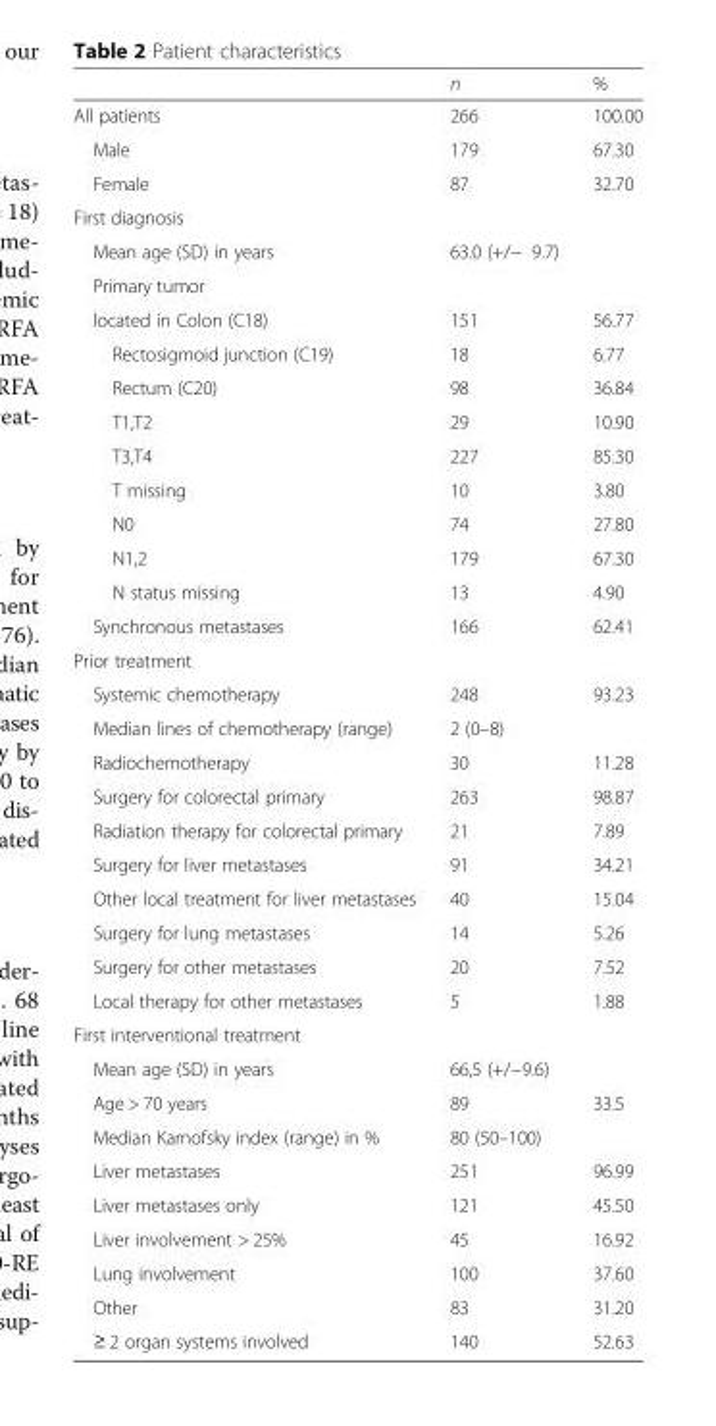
<table><thead><tr><td></td><td>n</td><td>%</td></tr></thead><tbody><tr><td>All patients</td><td>266</td><td>100.00</td></tr><tr><td>Male</td><td>179</td><td>67.30</td></tr><tr><td>Female</td><td>87</td><td>32.70</td></tr><tr><td colspan="3">First diagnosis</td></tr><tr><td>Mean age (SD) in years</td><td>63.0 (+/− 9.7)</td><td></td></tr><tr><td colspan="3">Primary tumor</td></tr><tr><td>located in Colon (C18)</td><td>151</td><td>56.77</td></tr><tr><td>Rectosigmoid junction (C19)</td><td>18</td><td>6.77</td></tr><tr><td>Rectum (C20)</td><td>98</td><td>36.84</td></tr><tr><td>T1,T2</td><td>29</td><td>10.90</td></tr><tr><td>T3,T4</td><td>227</td><td>85.30</td></tr><tr><td>T missing</td><td>10</td><td>3.80</td></tr><tr><td>N0</td><td>74</td><td>27.80</td></tr><tr><td>N1,2</td><td>179</td><td>67.30</td></tr><tr><td>N status missing</td><td>13</td><td>4.90</td></tr><tr><td>Synchronous metastases</td><td>166</td><td>62.41</td></tr><tr><td colspan="3">Prior treatment</td></tr><tr><td>Systemic chemotherapy</td><td>248</td><td>93.23</td></tr><tr><td>Median lines of chemotherapy (range)</td><td>2 (0–8)</td><td></td></tr><tr><td>Radiochemotherapy</td><td>30</td><td>11.28</td></tr><tr><td>Surgery for colorectal primary</td><td>263</td><td>98.87</td></tr><tr><td>Radiation therapy for colorectal primary</td><td>21</td><td>7.89</td></tr><tr><td>Surgery for liver metastases</td><td>91</td><td>34.21</td></tr><tr><td>Other local treatment for liver metastases</td><td>40</td><td>15.04</td></tr><tr><td>Surgery for lung metastases</td><td>14</td><td>5.26</td></tr><tr><td>Surgery for other metastases</td><td>20</td><td>7.52</td></tr><tr><td>Local therapy for other metastases</td><td>5</td><td>1.88</td></tr><tr><td colspan="3">First interventional treatment</td></tr><tr><td>Mean age (SD) in years</td><td>66,5 (+/−9.6)</td><td></td></tr><tr><td>Age &gt; 70 years</td><td>89</td><td>33.5</td></tr><tr><td>Median Karnofsky index (range) in %</td><td>80 (50–100)</td><td></td></tr><tr><td>Liver metastases</td><td>251</td><td>96.99</td></tr><tr><td>Liver metastases only</td><td>121</td><td>45.50</td></tr><tr><td>Liver involvement &gt; 25%</td><td>45</td><td>16.92</td></tr><tr><td>Lung involvement</td><td>100</td><td>37.60</td></tr><tr><td>Other</td><td>83</td><td>31.20</td></tr><tr><td>≥ 2 organ systems involved</td><td>140</td><td>52.63</td></tr></tbody></table>